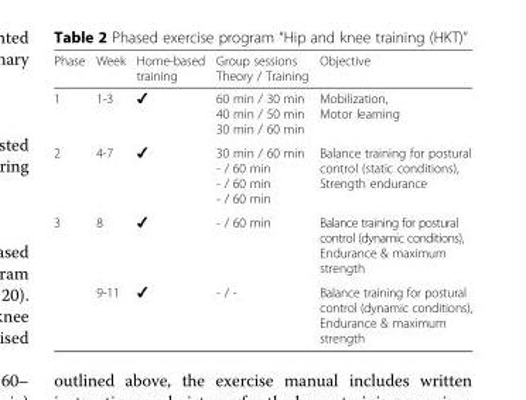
<table><thead><tr><td>Phase</td><td>Week</td><td>Home-based training</td><td>Group sessions Theory / Training</td><td>Objective</td></tr></thead><tbody><tr><td>1</td><td>1-3</td><td>✔</td><td>60 min / 30 min 40 min / 50 min 30 min / 60 min</td><td>Mobilization, Motor learning</td></tr><tr><td>2</td><td>4-7</td><td>✔</td><td>30 min / 60 min - / 60 min - / 60 min - / 60 min</td><td>Balance training for postural control (static conditions), Strength endurance</td></tr><tr><td rowspan="2">3</td><td>8</td><td>✔</td><td>- / 60 min</td><td>Balance training for postural control (dynamic conditions), Endurance &amp; maximum strength</td></tr><tr><td>9-11</td><td>✔</td><td>- / -</td><td>Balance training for postural control (dynamic conditions), Endurance &amp; maximum strength</td></tr></tbody></table>